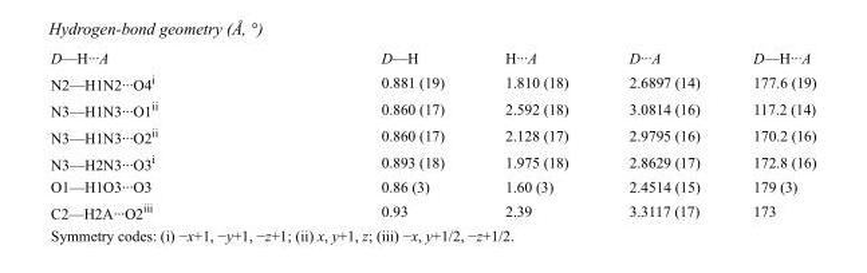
<table><tbody><tr><td>D—H···A</td><td>D—H</td><td>H···A</td><td>D···A</td><td>D—H···A</td></tr><tr><td>N2—H1N2···O4<sup>i</sup></td><td>0.881 (19)</td><td>1.810 (18)</td><td>2.6897 (14)</td><td>177.6 (19)</td></tr><tr><td>N3—H1N3···O1<sup>ii</sup></td><td>0.860 (17)</td><td>2.592 (18)</td><td>3.0814 (16)</td><td>117.2 (14)</td></tr><tr><td>N3—H1N3···O2<sup>ii</sup></td><td>0.860 (17)</td><td>2.128 (17)</td><td>2.9795 (16)</td><td>170.2 (16)</td></tr><tr><td>N3—H2N3···O3<sup>i</sup></td><td>0.893 (18)</td><td>1.975 (18)</td><td>2.8629 (17)</td><td>172.8 (16)</td></tr><tr><td>O1—H1O3···O3</td><td>0.86 (3)</td><td>1.60 (3)</td><td>2.4514 (15)</td><td>179 (3)</td></tr><tr><td>C2—H2A···O2<sup>iii</sup></td><td>0.93</td><td>2.39</td><td>3.3117 (17)</td><td>173</td></tr></tbody></table>